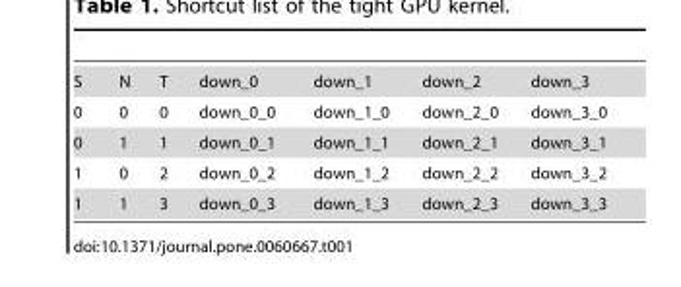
<table><tbody><tr><td>S</td><td>N</td><td>T</td><td>down_0</td><td>down_1</td><td>down_2</td><td>down_3</td></tr><tr><td>0</td><td>0</td><td>0</td><td>down_0_0</td><td>down_1_0</td><td>down_2_0</td><td>down_3_0</td></tr><tr><td>0</td><td>1</td><td>1</td><td>down_0_1</td><td>down_1_1</td><td>down_2_1</td><td>down_3_1</td></tr><tr><td>1</td><td>0</td><td>2</td><td>down_0_2</td><td>down_1_2</td><td>down_2_2</td><td>down_3_2</td></tr><tr><td>1</td><td>1</td><td>3</td><td>down_0_3</td><td>down_1_3</td><td>down_2_3</td><td>down_3_3</td></tr></tbody></table>